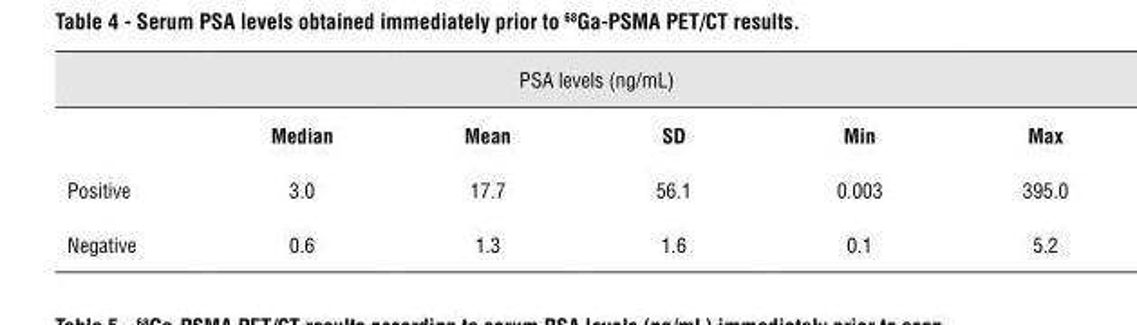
<table><thead><tr><td colspan="6">PSA levels (ng/mL)</td></tr><tr><td></td><td>Median</td><td>Mean</td><td>SD</td><td>Min</td><td>Max</td></tr></thead><tbody><tr><td>Positive</td><td>3.0</td><td>17.7</td><td>56.1</td><td>0.003</td><td>395.0</td></tr><tr><td>Negative</td><td>0.6</td><td>1.3</td><td>1.6</td><td>0.1</td><td>5.2</td></tr></tbody></table>